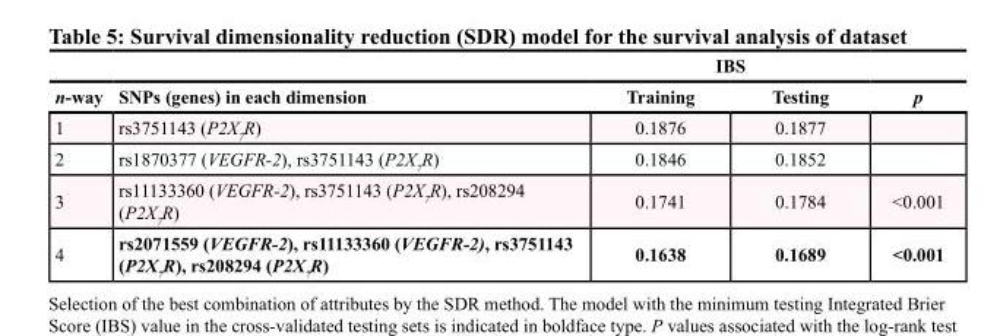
<table><thead><tr><td rowspan="2">n-way</td><td rowspan="2">SNPs (genes) in each dimension</td><td colspan="2">IBS</td><td rowspan="2">p</td></tr><tr><td>Training</td><td>Testing</td></tr></thead><tbody><tr><td>1</td><td>rs3751143 (P2X<sub>7</sub>R)</td><td>0.1876</td><td>0.1877</td><td></td></tr><tr><td>2</td><td>rs1870377 (VEGFR-2), rs3751143 (P2X<sub>7</sub>R)</td><td>0.1846</td><td>0.1852</td><td></td></tr><tr><td>3</td><td>rs11133360 (VEGFR-2), rs3751143 (P2X<sub>7</sub>R), rs208294 (P2X<sub>7</sub>R)</td><td>0.1741</td><td>0.1784</td><td>&lt;0.001</td></tr><tr><td>4</td><td>rs2071559 (VEGFR-2), rs11133360 (VEGFR-2), rs3751143 (P2X<sub>7</sub>R), rs208294 (P2X<sub>7</sub>R)</td><td>0.1638</td><td>0.1689</td><td>&lt;0.001</td></tr></tbody></table>